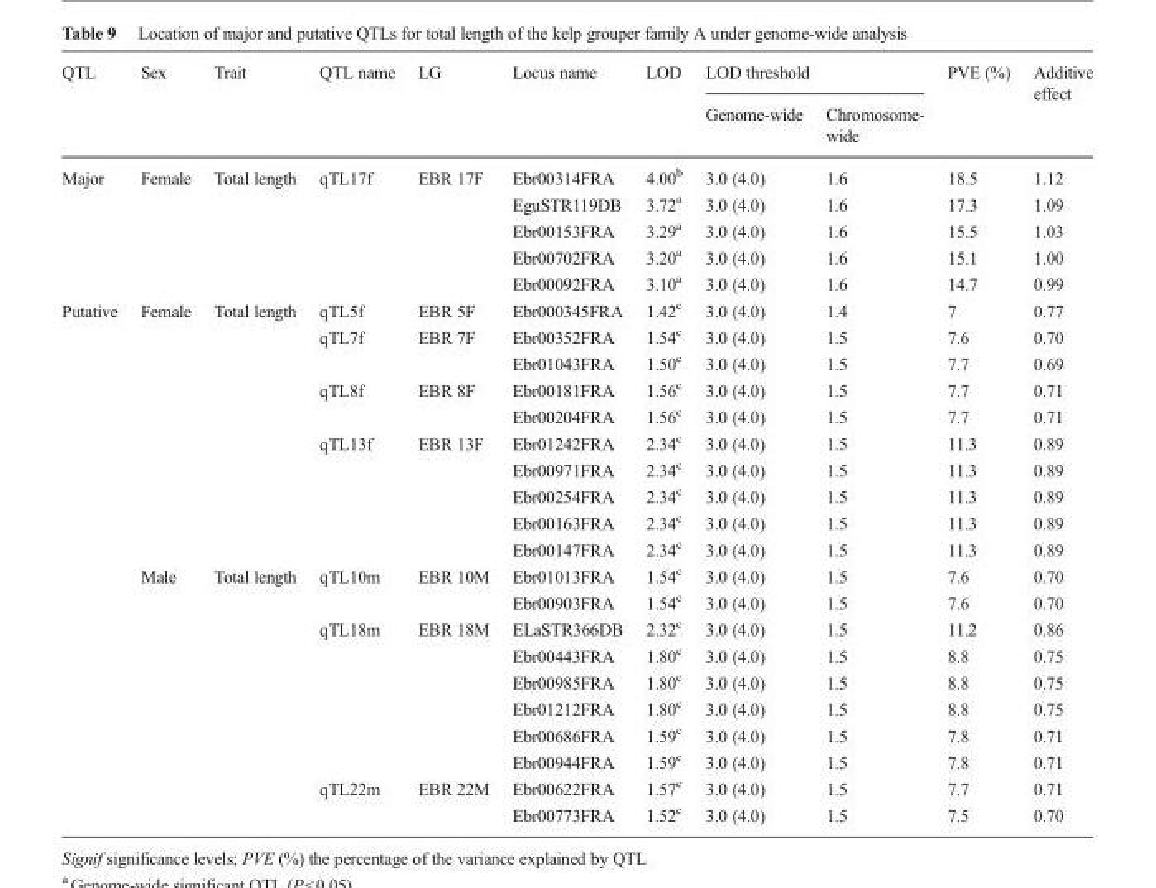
<table><thead><tr><td rowspan="2">QTL</td><td rowspan="2">Sex</td><td rowspan="2">Trait</td><td rowspan="2">QTL name</td><td rowspan="2">LG</td><td rowspan="2">Locus name</td><td rowspan="2">LOD</td><td colspan="2">LOD threshold</td><td rowspan="2">PVE (%)</td><td rowspan="2">Additive effect</td></tr><tr><td>Genome-wide</td><td>Chromosome- wide</td></tr></thead><tbody><tr><td rowspan="5">Major</td><td>Female</td><td>Total length</td><td>qTL17f</td><td>EBR 17F</td><td>Ebr00314FRA</td><td>4.00<sup>b</sup></td><td>3.0 (4.0)</td><td>1.6</td><td>18.5</td><td>1.12</td></tr><tr><td></td><td></td><td></td><td></td><td>EguSTR119DB</td><td>3.72<sup>a</sup></td><td>3.0 (4.0)</td><td>1.6</td><td>17.3</td><td>1.09</td></tr><tr><td></td><td></td><td></td><td></td><td>Ebr00153FRA</td><td>3.29<sup>a</sup></td><td>3.0 (4.0)</td><td>1.6</td><td>15.5</td><td>1.03</td></tr><tr><td></td><td></td><td></td><td></td><td>Ebr00702FRA</td><td>3.20<sup>a</sup></td><td>3.0 (4.0)</td><td>1.6</td><td>15.1</td><td>1.00</td></tr><tr><td></td><td></td><td></td><td></td><td>Ebr00092FRA</td><td>3.10<sup>a</sup></td><td>3.0 (4.0)</td><td>1.6</td><td>14.7</td><td>0.99</td></tr><tr><td rowspan="20">Putative</td><td>Female</td><td>Total length</td><td>qTL5f</td><td>EBR 5F</td><td>Ebr000345FRA</td><td>1.42<sup>c</sup></td><td>3.0 (4.0)</td><td>1.4</td><td>7</td><td>0.77</td></tr><tr><td></td><td></td><td>qTL7f</td><td>EBR 7F</td><td>Ebr00352FRA</td><td>1.54<sup>c</sup></td><td>3.0 (4.0)</td><td>1.5</td><td>7.6</td><td>0.70</td></tr><tr><td></td><td></td><td></td><td></td><td>Ebr01043FRA</td><td>1.50<sup>c</sup></td><td>3.0 (4.0)</td><td>1.5</td><td>7.7</td><td>0.69</td></tr><tr><td></td><td></td><td>qTL8f</td><td>EBR 8F</td><td>Ebr00181FRA</td><td>1.56<sup>c</sup></td><td>3.0 (4.0)</td><td>1.5</td><td>7.7</td><td>0.71</td></tr><tr><td></td><td></td><td></td><td></td><td>Ebr00204FRA</td><td>1.56<sup>c</sup></td><td>3.0 (4.0)</td><td>1.5</td><td>7.7</td><td>0.71</td></tr><tr><td></td><td></td><td>qTL13f</td><td>EBR 13F</td><td>Ebr01242FRA</td><td>2.34<sup>c</sup></td><td>3.0 (4.0)</td><td>1.5</td><td>11.3</td><td>0.89</td></tr><tr><td></td><td></td><td></td><td></td><td>Ebr00971FRA</td><td>2.34<sup>c</sup></td><td>3.0 (4.0)</td><td>1.5</td><td>11.3</td><td>0.89</td></tr><tr><td></td><td></td><td></td><td></td><td>Ebr00254FRA</td><td>2.34<sup>c</sup></td><td>3.0 (4.0)</td><td>1.5</td><td>11.3</td><td>0.89</td></tr><tr><td></td><td></td><td></td><td></td><td>Ebr00163FRA</td><td>2.34<sup>c</sup></td><td>3.0 (4.0)</td><td>1.5</td><td>11.3</td><td>0.89</td></tr><tr><td></td><td></td><td></td><td></td><td>Ebr00147FRA</td><td>2.34<sup>c</sup></td><td>3.0 (4.0)</td><td>1.5</td><td>11.3</td><td>0.89</td></tr><tr><td>Male</td><td>Total length</td><td>qTL10m</td><td>EBR 10M</td><td>Ebr01013FRA</td><td>1.54<sup>c</sup></td><td>3.0 (4.0)</td><td>1.5</td><td>7.6</td><td>0.70</td></tr><tr><td></td><td></td><td></td><td></td><td>Ebr00903FRA</td><td>1.54<sup>c</sup></td><td>3.0 (4.0)</td><td>1.5</td><td>7.6</td><td>0.70</td></tr><tr><td></td><td></td><td>qTL18m</td><td>EBR 18M</td><td>ELaSTR366DB</td><td>2.32<sup>c</sup></td><td>3.0 (4.0)</td><td>1.5</td><td>11.2</td><td>0.86</td></tr><tr><td></td><td></td><td></td><td></td><td>Ebr00443FRA</td><td>1.80<sup>c</sup></td><td>3.0 (4.0)</td><td>1.5</td><td>8.8</td><td>0.75</td></tr><tr><td></td><td></td><td></td><td></td><td>Ebr00985FRA</td><td>1.80<sup>c</sup></td><td>3.0 (4.0)</td><td>1.5</td><td>8.8</td><td>0.75</td></tr><tr><td></td><td></td><td></td><td></td><td>Ebr01212FRA</td><td>1.80<sup>c</sup></td><td>3.0 (4.0)</td><td>1.5</td><td>8.8</td><td>0.75</td></tr><tr><td></td><td></td><td></td><td></td><td>Ebr00686FRA</td><td>1.59<sup>c</sup></td><td>3.0 (4.0)</td><td>1.5</td><td>7.8</td><td>0.71</td></tr><tr><td></td><td></td><td></td><td></td><td>Ebr00944FRA</td><td>1.59<sup>c</sup></td><td>3.0 (4.0)</td><td>1.5</td><td>7.8</td><td>0.71</td></tr><tr><td></td><td></td><td>qTL22m</td><td>EBR 22M</td><td>Ebr00622FRA</td><td>1.57<sup>c</sup></td><td>3.0 (4.0)</td><td>1.5</td><td>7.7</td><td>0.71</td></tr><tr><td></td><td></td><td></td><td></td><td>Ebr00773FRA</td><td>1.52<sup>c</sup></td><td>3.0 (4.0)</td><td>1.5</td><td>7.5</td><td>0.70</td></tr></tbody></table>